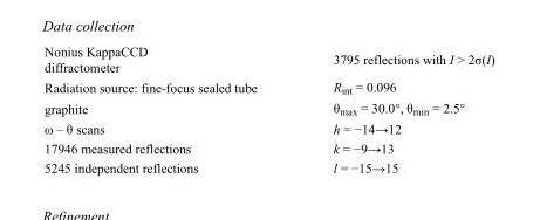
<table><tbody><tr><td>Nonius KappaCCD diffractometer</td><td>3795 reflections with I &gt; 2σ(I)</td></tr><tr><td>Radiation source: fine-focus sealed tube</td><td>R<sub>int</sub> = 0.096</td></tr><tr><td>graphite</td><td>θ<sub>max</sub> = 30.0°, θ<sub>min</sub> = 2.5°</td></tr><tr><td>ω – θ scans</td><td>h = −14→12</td></tr><tr><td>17946 measured reflections</td><td>k = −9→13</td></tr><tr><td>5245 independent reflections</td><td>l = −15→15</td></tr></tbody></table>